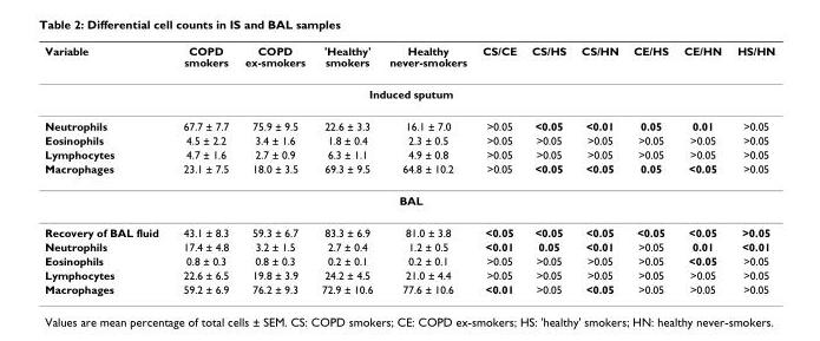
<table><thead><tr><td>Variable</td><td>COPD smokers</td><td>COPD ex-smokers</td><td>&#x27;Healthy&#x27; smokers</td><td>Healthy never-smokers</td><td>CS/CE</td><td>CS/HS</td><td>CS/HN</td><td>CE/HS</td><td>CE/HN</td><td>HS/HN</td></tr></thead><tbody><tr><td colspan="11">Induced sputum</td></tr><tr><td>Neutrophils</td><td>67.7 ± 7.7</td><td>75.9 ± 9.5</td><td>22.6 ± 3.3</td><td>16.1 ± 7.0</td><td>&gt;0.05</td><td>&lt;0.05</td><td>&lt;0.01</td><td>0.05</td><td>0.01</td><td>&gt;0.05</td></tr><tr><td>Eosinophils</td><td>4.5 ± 2.2</td><td>3.4 ± 1.6</td><td>1.8 ± 0.4</td><td>2.3 ± 0.5</td><td>&gt;0.05</td><td>&gt;0.05</td><td>&gt;0.05</td><td>&gt;0.05</td><td>&gt;0.05</td><td>&gt;0.05</td></tr><tr><td>Lymphocytes</td><td>4.7 ± 1.6</td><td>2.7 ± 0.9</td><td>6.3 ± 1.1</td><td>4.9 ± 0.8</td><td>&gt;0.05</td><td>&gt;0.05</td><td>&gt;0.05</td><td>&gt;0.05</td><td>&gt;0.05</td><td>&gt;0.05</td></tr><tr><td>Macrophages</td><td>23.1 ± 7.5</td><td>18.0 ± 3.5</td><td>69.3 ± 9.5</td><td>64.8 ± 10.2</td><td>&gt;0.05</td><td>&lt;0.05</td><td>&lt;0.05</td><td>0.05</td><td>&lt;0.05</td><td>&gt;0.05</td></tr><tr><td colspan="11">BAL</td></tr><tr><td>Recovery of BAL fluid</td><td>43.1 ± 8.3</td><td>59.3 ± 6.7</td><td>83.3 ± 6.9</td><td>81.0 ± 3.8</td><td>&lt;0.05</td><td>&lt;0.05</td><td>&lt;0.05</td><td>&lt;0.05</td><td>&lt;0.05</td><td>&gt;0.05</td></tr><tr><td>Neutrophils</td><td>17.4 ± 4.8</td><td>3.2 ± 1.5</td><td>2.7 ± 0.4</td><td>1.2 ± 0.5</td><td>&lt;0.01</td><td>0.05</td><td>&lt;0.01</td><td>&gt;0.05</td><td>0.01</td><td>&lt;0.01</td></tr><tr><td>Eosinophils</td><td>0.8 ± 0.3</td><td>0.8 ± 0.3</td><td>0.2 ± 0.1</td><td>0.2 ± 0.1</td><td>&gt;0.05</td><td>&gt;0.05</td><td>&gt;0.05</td><td>&gt;0.05</td><td>&lt;0.05</td><td>&gt;0.05</td></tr><tr><td>Lymphocytes</td><td>22.6 ± 6.5</td><td>19.8 ± 3.9</td><td>24.2 ± 4.5</td><td>21.0 ± 4.4</td><td>&gt;0.05</td><td>&gt;0.05</td><td>&gt;0.05</td><td>&gt;0.05</td><td>&gt;0.05</td><td>&gt;0.05</td></tr><tr><td>Macrophages</td><td>59.2 ± 6.9</td><td>76.2 ± 9.3</td><td>72.9 ± 10.6</td><td>77.6 ± 10.6</td><td>&lt;0.01</td><td>&gt;0.05</td><td>&lt;0.05</td><td>&gt;0.05</td><td>&gt;0.05</td><td>&gt;0.05</td></tr></tbody></table>